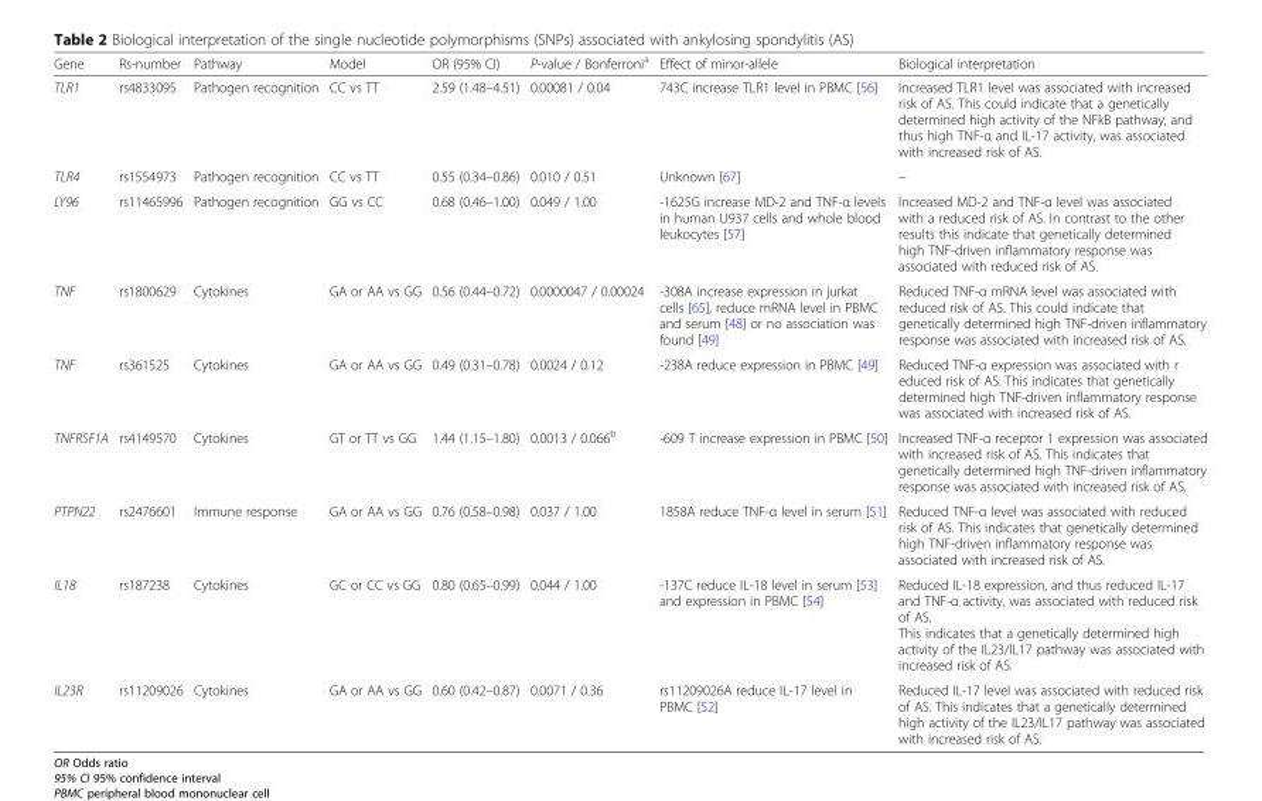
<table><thead><tr><td>Gene</td><td>Rs-number</td><td>Pathway</td><td>Model</td><td>OR (95% CI)</td><td>P-value / Bonferroni<sup>a</sup></td><td>Effect of minor-allele</td><td>Biological interpretation</td></tr></thead><tbody><tr><td>TLR1</td><td>rs4833095</td><td>Pathogen recognition</td><td>CC vs TT</td><td>2.59 (1.48–4.51)</td><td>0.00081 / 0.04</td><td>743C increase TLR1 level in PBMC [56]</td><td>Increased TLR1 level was associated with increased risk of AS. This could indicate that a genetically determined high activity of the NFkB pathway, and thus high TNF-α and IL-17 activity, was associated with increased risk of AS.</td></tr><tr><td>TLR4</td><td>rs1554973</td><td>Pathogen recognition</td><td>CC vs TT</td><td>0.55 (0.34–0.86)</td><td>0.010 / 0.51</td><td>Unknown [67]</td><td>–</td></tr><tr><td>LY96</td><td>rs11465996</td><td>Pathogen recognition</td><td>GG vs CC</td><td>0.68 (0.46–1.00)</td><td>0.049 / 1.00</td><td>-1625G increase MD-2 and TNF-α levels in human U937 cells and whole blood leukocytes [57]</td><td>Increased MD-2 and TNF-α level was associated with a reduced risk of AS. In contrast to the other results this indicate that genetically determined high TNF-driven inflammatory response was associated with reduced risk of AS.</td></tr><tr><td>TNF</td><td>rs1800629</td><td>Cytokines</td><td>GA or AA vs GG</td><td>0.56 (0.44–0.72)</td><td>0.0000047 / 0.00024</td><td>-308A increase expression in jurkat cells [65], reduce mRNA level in PBMC and serum [48] or no association was found [49]</td><td>Reduced TNF-α mRNA level was associated with reduced risk of AS. This could indicate that genetically determined high TNF-driven inflammatory response was associated with increased risk of AS.</td></tr><tr><td>TNF</td><td>rs361525</td><td>Cytokines</td><td>GA or AA vs GG</td><td>0.49 (0.31–0.78)</td><td>0.0024 / 0.12</td><td>-238A reduce expression in PBMC [49]</td><td>Reduced TNF-α expression was associated with r educed risk of AS. This indicates that genetically determined high TNF-driven inflammatory response was associated with increased risk of AS.</td></tr><tr><td>TNFRSF1A</td><td>rs4149570</td><td>Cytokines</td><td>GT or TT vs GG</td><td>1.44 (1.15–1.80)</td><td>0.0013 / 0.066<sup>b</sup></td><td>-609 T increase expression in PBMC [50]</td><td>Increased TNF-α receptor 1 expression was associated with increased risk of AS. This indicates that genetically determined high TNF-driven inflammatory response was associated with increased risk of AS.</td></tr><tr><td>PTPN22</td><td>rs2476601</td><td>Immune response</td><td>GA or AA vs GG</td><td>0.76 (0.58–0.98)</td><td>0.037 / 1.00</td><td>1858A reduce TNF-α level in serum [51]</td><td>Reduced TNF-α level was associated with reduced risk of AS. This indicates that genetically determined high TNF-driven inflammatory response was associated with increased risk of AS.</td></tr><tr><td>IL18</td><td>rs187238</td><td>Cytokines</td><td>GC or CC vs GG</td><td>0.80 (0.65–0.99)</td><td>0.044 / 1.00</td><td>-137C reduce IL-18 level in serum [53] and expression in PBMC [54]</td><td>Reduced IL-18 expression, and thus reduced IL-17 and TNF-α activity, was associated with reduced risk of AS. This indicates that a genetically determined high activity of the IL23/IL17 pathway was associated with increased risk of AS.</td></tr><tr><td>IL23R</td><td>rs11209026</td><td>Cytokines</td><td>GA or AA vs GG</td><td>0.60 (0.42–0.87)</td><td>0.0071 / 0.36</td><td>rs11209026A reduce IL-17 level in PBMC [52]</td><td>Reduced IL-17 level was associated with reduced risk of AS. This indicates that a genetically determined high activity of the IL23/IL17 pathway was associated with increased risk of AS.</td></tr></tbody></table>